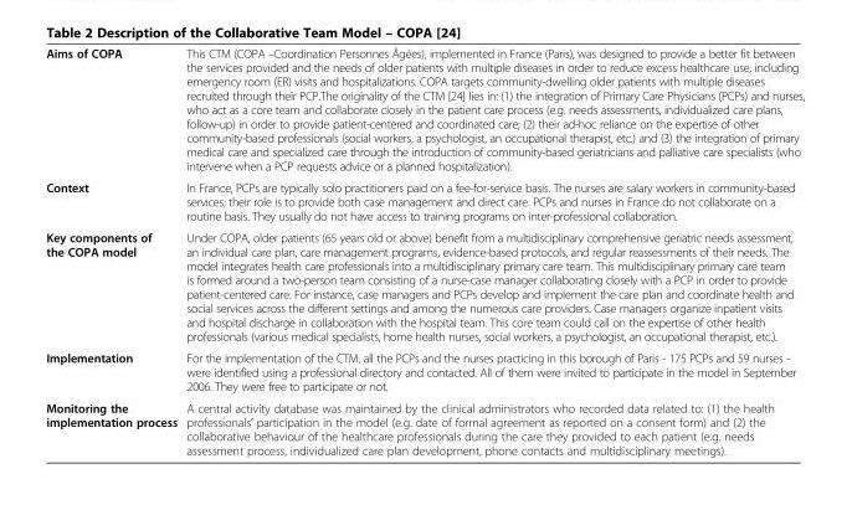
<table><thead><tr><td>Aims of COPA</td><td>This CTM (COPA –Coordination Personnes Âgées), implemented in France (Paris), was designed to provide a better fit between the services provided and the needs of older patients with multiple diseases in order to reduce excess healthcare use, including emergency room (ER) visits and hospitalizations. COPA targets community-dwelling older patients with multiple diseases recruited through their PCP.The originality of the CTM [24] lies in: (1) the integration of Primary Care Physicians (PCPs) and nurses, who act as a core team and collaborate closely in the patient care process (e.g. needs assessments, individualized care plans, follow-up) in order to provide patient-centered and coordinated care; (2) their ad-hoc reliance on the expertise of other community-based professionals (social workers, a psychologist, an occupational therapist, etc.) and (3) the integration of primary medical care and specialized care through the introduction of community-based geriatricians and palliative care specialists (who intervene when a PCP requests advice or a planned hospitalization).</td></tr></thead><tbody><tr><td>Context</td><td>In France, PCPs are typically solo practitioners paid on a fee-for-service basis. The nurses are salary workers in community-based services; their role is to provide both case management and direct care. PCPs and nurses in France do not collaborate on a routine basis. They usually do not have access to training programs on inter-professional collaboration.</td></tr><tr><td>Key components of the COPA model</td><td>Under COPA, older patients (65 years old or above) benefit from a multidisciplinary comprehensive geriatric needs assessment, an individual care plan, care management programs, evidence-based protocols, and regular reassessments of their needs. The model integrates health care professionals into a multidisciplinary primary care team. This multidisciplinary primary care team is formed around a two-person team consisting of a nurse-case manager collaborating closely with a PCP in order to provide patient-centered care. For instance, case managers and PCPs develop and implement the care plan and coordinate health and social services across the different settings and among the numerous care providers. Case managers organize inpatient visits and hospital discharge in collaboration with the hospital team. This core team could call on the expertise of other health professionals (various medical specialists, home health nurses, social workers, a psychologist, an occupational therapist, etc.).</td></tr><tr><td>Implementation</td><td>For the implementation of the CTM, all the PCPs and the nurses practicing in this borough of Paris - 175 PCPs and 59 nurses - were identified using a professional directory and contacted. All of them were invited to participate in the model in September 2006. They were free to participate or not.</td></tr><tr><td>Monitoring the implementation process</td><td>A central activity database was maintained by the clinical administrators who recorded data related to: (1) the health professionals’ participation in the model (e.g. date of formal agreement as reported on a consent form) and (2) the collaborative behaviour of the healthcare professionals during the care they provided to each patient (e.g. needs assessment process, individualized care plan development, phone contacts and multidisciplinary meetings).</td></tr></tbody></table>